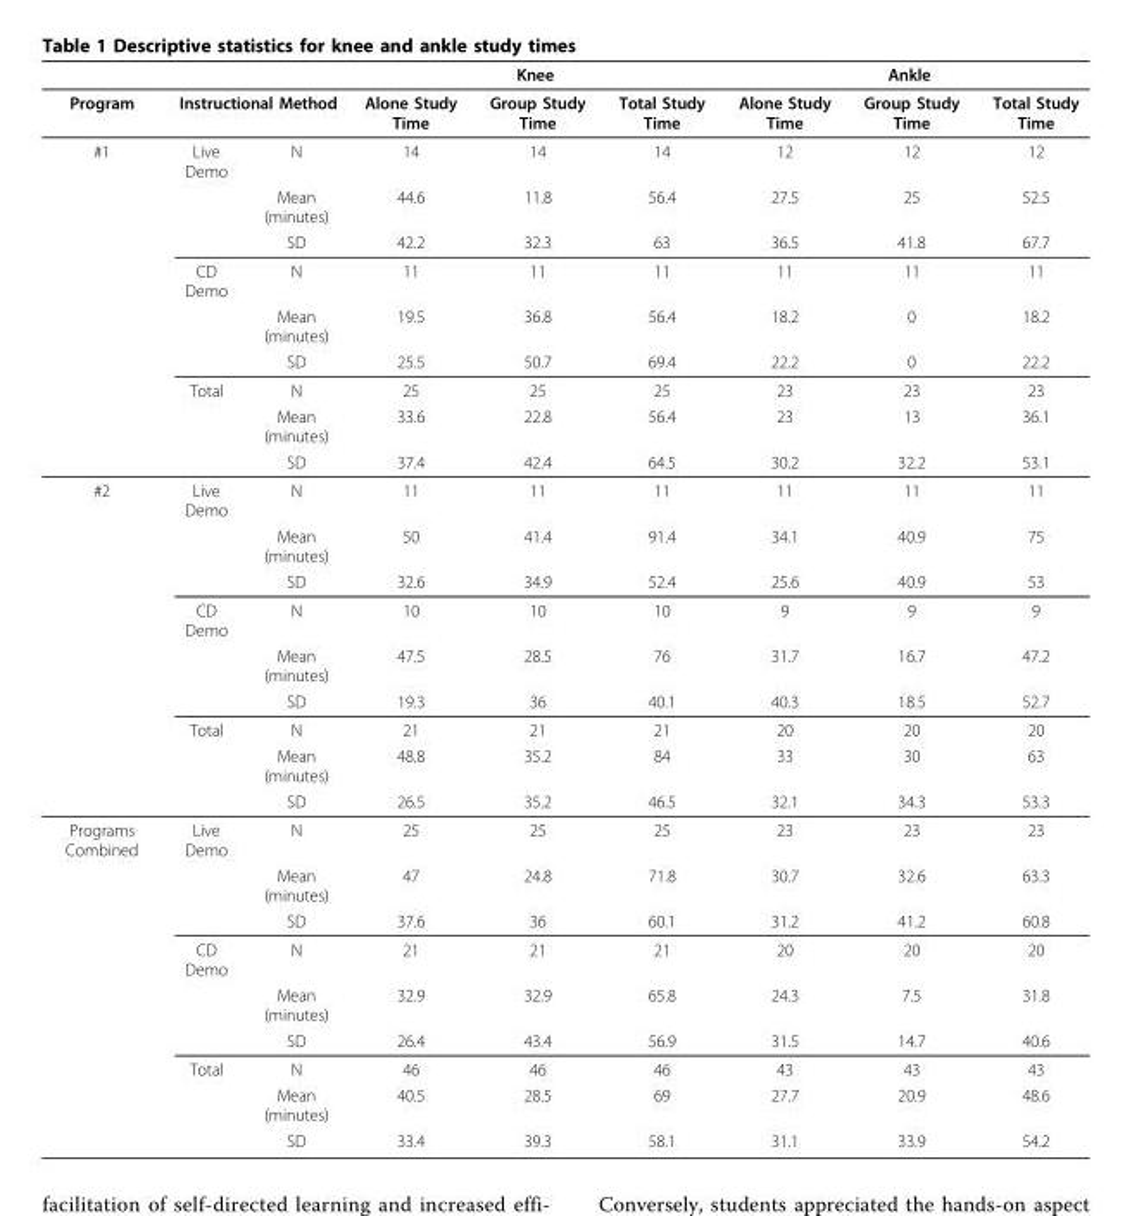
<table><thead><tr><td rowspan="2">Program</td><td></td><td></td><td colspan="3">Knee</td><td colspan="3">Ankle</td></tr><tr><td colspan="2">Instructional Method</td><td>Alone Study Time</td><td>Group Study Time</td><td>Total Study Time</td><td>Alone Study Time</td><td>Group Study Time</td><td>Total Study Time</td></tr></thead><tbody><tr><td rowspan="9">#1</td><td>Live Demo</td><td>N</td><td>14</td><td>14</td><td>14</td><td>12</td><td>12</td><td>12</td></tr><tr><td></td><td>Mean (minutes)</td><td>44.6</td><td>11.8</td><td>56.4</td><td>27.5</td><td>25</td><td>52.5</td></tr><tr><td></td><td>SD</td><td>42.2</td><td>32.3</td><td>63</td><td>36.5</td><td>41.8</td><td>67.7</td></tr><tr><td>CD Demo</td><td>N</td><td>11</td><td>11</td><td>11</td><td>11</td><td>11</td><td>11</td></tr><tr><td></td><td>Mean (minutes)</td><td>19.5</td><td>36.8</td><td>56.4</td><td>18.2</td><td>0</td><td>18.2</td></tr><tr><td></td><td>SD</td><td>25.5</td><td>50.7</td><td>69.4</td><td>22.2</td><td>0</td><td>22.2</td></tr><tr><td>Total</td><td>N</td><td>25</td><td>25</td><td>25</td><td>23</td><td>23</td><td>23</td></tr><tr><td></td><td>Mean (minutes)</td><td>33.6</td><td>22.8</td><td>56.4</td><td>23</td><td>13</td><td>36.1</td></tr><tr><td></td><td>SD</td><td>37.4</td><td>42.4</td><td>64.5</td><td>30.2</td><td>32.2</td><td>53.1</td></tr><tr><td rowspan="9">#2</td><td>Live Demo</td><td>N</td><td>11</td><td>11</td><td>11</td><td>11</td><td>11</td><td>11</td></tr><tr><td></td><td>Mean (minutes)</td><td>50</td><td>41.4</td><td>91.4</td><td>34.1</td><td>40.9</td><td>75</td></tr><tr><td></td><td>SD</td><td>32.6</td><td>34.9</td><td>52.4</td><td>25.6</td><td>40.9</td><td>53</td></tr><tr><td>CD Demo</td><td>N</td><td>10</td><td>10</td><td>10</td><td>9</td><td>9</td><td>9</td></tr><tr><td></td><td>Mean (minutes)</td><td>47.5</td><td>28.5</td><td>76</td><td>31.7</td><td>16.7</td><td>47.2</td></tr><tr><td></td><td>SD</td><td>19.3</td><td>36</td><td>40.1</td><td>40.3</td><td>18.5</td><td>52.7</td></tr><tr><td>Total</td><td>N</td><td>21</td><td>21</td><td>21</td><td>20</td><td>20</td><td>20</td></tr><tr><td></td><td>Mean (minutes)</td><td>48.8</td><td>35.2</td><td>84</td><td>33</td><td>30</td><td>63</td></tr><tr><td></td><td>SD</td><td>26.5</td><td>35.2</td><td>46.5</td><td>32.1</td><td>34.3</td><td>53.3</td></tr><tr><td rowspan="9">Programs Combined</td><td>Live Demo</td><td>N</td><td>25</td><td>25</td><td>25</td><td>23</td><td>23</td><td>23</td></tr><tr><td></td><td>Mean (minutes)</td><td>47</td><td>24.8</td><td>71.8</td><td>30.7</td><td>32.6</td><td>63.3</td></tr><tr><td></td><td>SD</td><td>37.6</td><td>36</td><td>60.1</td><td>31.2</td><td>41.2</td><td>60.8</td></tr><tr><td>CD Demo</td><td>N</td><td>21</td><td>21</td><td>21</td><td>20</td><td>20</td><td>20</td></tr><tr><td></td><td>Mean (minutes)</td><td>32.9</td><td>32.9</td><td>65.8</td><td>24.3</td><td>7.5</td><td>31.8</td></tr><tr><td></td><td>SD</td><td>26.4</td><td>43.4</td><td>56.9</td><td>31.5</td><td>14.7</td><td>40.6</td></tr><tr><td>Total</td><td>N</td><td>46</td><td>46</td><td>46</td><td>43</td><td>43</td><td>43</td></tr><tr><td></td><td>Mean (minutes)</td><td>40.5</td><td>28.5</td><td>69</td><td>27.7</td><td>20.9</td><td>48.6</td></tr><tr><td></td><td>SD</td><td>33.4</td><td>39.3</td><td>58.1</td><td>31.1</td><td>33.9</td><td>54.2</td></tr></tbody></table>